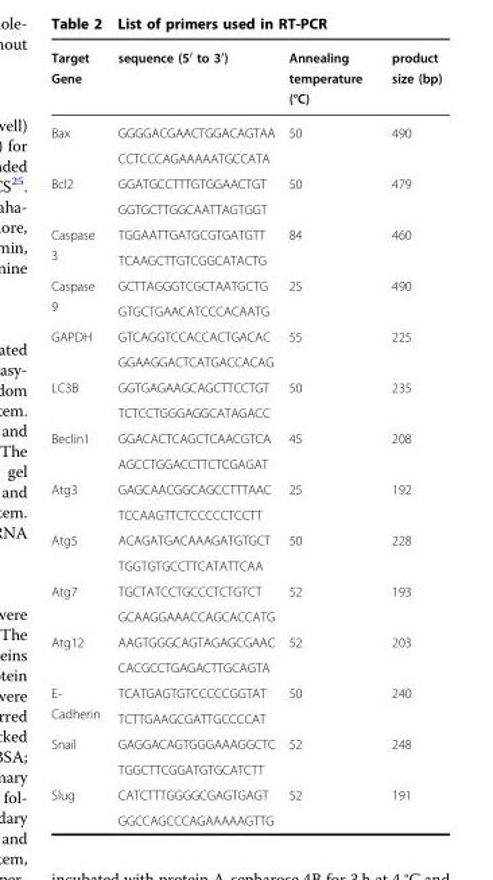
<table><thead><tr><td>Target Gene</td><td>sequence (5′ to 3′)</td><td>Annealing temperature (°C)</td><td>product size (bp)</td></tr></thead><tbody><tr><td rowspan="2">Bax</td><td>GGGGACGAACTGGACAGTAA</td><td rowspan="2">50</td><td rowspan="2">490</td></tr><tr><td>CCTCCCAGAAAAATGCCATA</td></tr><tr><td rowspan="2">Bcl2</td><td>GGATGCCTTTGTGGAACTGT</td><td rowspan="2">50</td><td rowspan="2">479</td></tr><tr><td>GGTGCTTGGCAATTAGTGGT</td></tr><tr><td rowspan="2">Caspase 3</td><td>TGGAATTGATGCGTGATGTT</td><td rowspan="2">84</td><td rowspan="2">460</td></tr><tr><td>TCAAGCTTGTCGGCATACTG</td></tr><tr><td rowspan="2">Caspase 9</td><td>GCTTAGGGTCGCTAATGCTG</td><td rowspan="2">25</td><td rowspan="2">490</td></tr><tr><td>GTGCTGAACATCCCACAATG</td></tr><tr><td rowspan="2">GAPDH</td><td>GTCAGGTCCACCACTGACAC</td><td rowspan="2">55</td><td rowspan="2">225</td></tr><tr><td>GGAAGGACTCATGACCACAG</td></tr><tr><td rowspan="2">LC3B</td><td>GGTGAGAAGCAGCTTCCTGT</td><td rowspan="2">50</td><td rowspan="2">235</td></tr><tr><td>TCTCCTGGGAGGCATAGACC</td></tr><tr><td rowspan="2">Beclin1</td><td>GGACACTCAGCTCAACGTCA</td><td rowspan="2">45</td><td rowspan="2">208</td></tr><tr><td>AGCCTGGACCTTCTCGAGAT</td></tr><tr><td rowspan="2">Atg3</td><td>GAGCAACGGCAGCCTTTAAC</td><td rowspan="2">25</td><td rowspan="2">192</td></tr><tr><td>TCCAAGTTCTCCCCCTCCTT</td></tr><tr><td rowspan="2">Atg5</td><td>ACAGATGACAAAGATGTGCT</td><td rowspan="2">50</td><td rowspan="2">228</td></tr><tr><td>TGGTGTGCCTTCATATTCAA</td></tr><tr><td rowspan="2">Atg7</td><td>TGCTATCCTGCCCTCTGTCT</td><td rowspan="2">52</td><td rowspan="2">193</td></tr><tr><td>GCAAGGAAACCAGCACCATG</td></tr><tr><td rowspan="2">Atg12</td><td>AAGTGGGCAGTAGAGCGAAC</td><td rowspan="2">52</td><td rowspan="2">203</td></tr><tr><td>CACGCCTGAGACTTGCAGTA</td></tr><tr><td rowspan="2">E- Cadherin</td><td>TCATGAGTGTCCCCCGGTAT</td><td rowspan="2">50</td><td rowspan="2">240</td></tr><tr><td>TCTTGAAGCGATTGCCCCAT</td></tr><tr><td rowspan="2">Snail</td><td>GAGGACAGTGGGAAAGGCTC</td><td rowspan="2">52</td><td rowspan="2">248</td></tr><tr><td>TGGCTTCGGATGTGCATCTT</td></tr><tr><td rowspan="2">Slug</td><td>CATCTTTGGGGCGAGTGAGT</td><td rowspan="2">52</td><td rowspan="2">191</td></tr><tr><td>GGCCAGCCCAGAAAAAGTTG</td></tr></tbody></table>